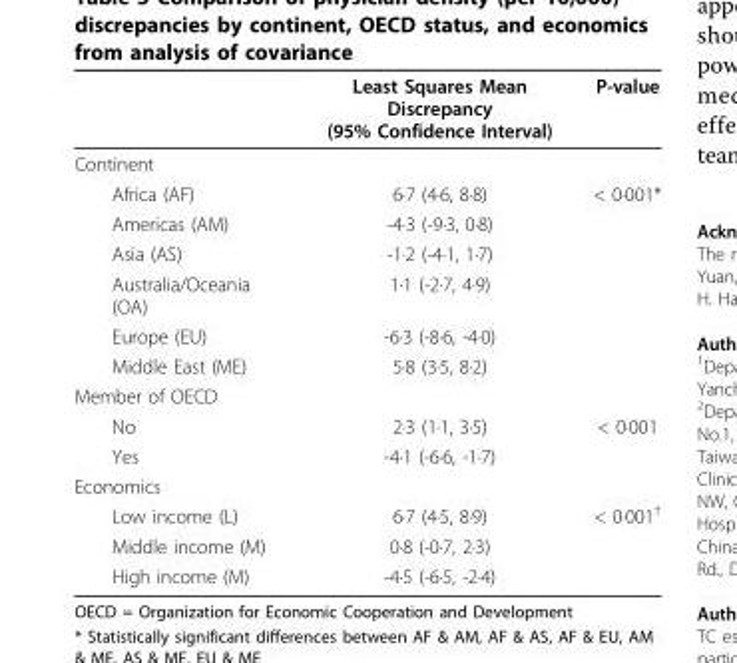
<table><thead><tr><td></td><td>Least Squares Mean Discrepancy (95% Confidence Interval)</td><td>P-value</td></tr></thead><tbody><tr><td colspan="3">Continent</td></tr><tr><td>Africa (AF)</td><td>6·7 (4·6, 8·8)</td><td>&lt; 0·001*</td></tr><tr><td>Americas (AM)</td><td>-4·3 (-9·3, 0·8)</td><td></td></tr><tr><td>Asia (AS)</td><td>-1·2 (-4·1, 1·7)</td><td></td></tr><tr><td>Australia/Oceania (OA)</td><td>1·1 (-2·7, 4·9)</td><td></td></tr><tr><td>Europe (EU)</td><td>-6·3 (-8·6, -4·0)</td><td></td></tr><tr><td>Middle East (ME)</td><td>5·8 (3·5, 8·2)</td><td></td></tr><tr><td colspan="3">Member of OECD</td></tr><tr><td>No</td><td>2·3 (1·1, 3·5)</td><td>&lt; 0·001</td></tr><tr><td>Yes</td><td>-4·1 (-6·6, -1·7)</td><td></td></tr><tr><td colspan="3">Economics</td></tr><tr><td>Low income (L)</td><td>6·7 (4·5, 8·9)</td><td>&lt; 0·001<sup>†</sup></td></tr><tr><td>Middle income (M)</td><td>0·8 (-0·7, 2·3)</td><td></td></tr><tr><td>High income (M)</td><td>-4·5 (-6·5, -2·4)</td><td></td></tr></tbody></table>